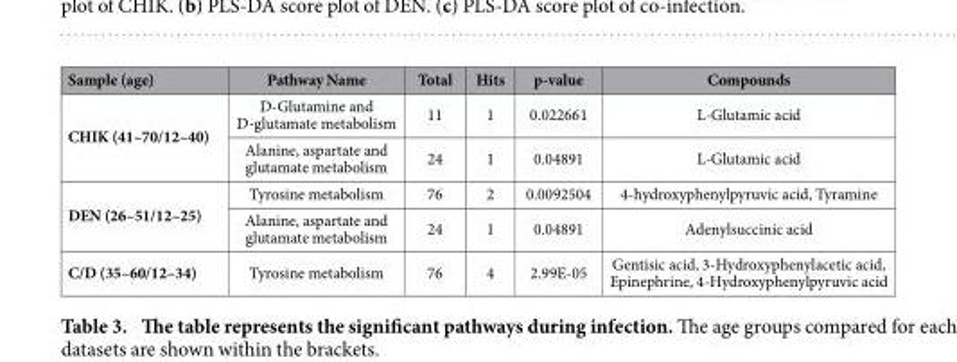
<table><thead><tr><td>Sample (age)</td><td>Pathway Name</td><td>Total</td><td>Hits</td><td>p-value</td><td>Compounds</td></tr></thead><tbody><tr><td rowspan="2">CHIK (41–70/12–40)</td><td>D-Glutamine and D-glutamate metabolism</td><td>11</td><td>1</td><td>0.022661</td><td>L-Glutamic acid</td></tr><tr><td>Alanine, aspartate and glutamate metabolism</td><td>24</td><td>1</td><td>0.04891</td><td>L-Glutamic acid</td></tr><tr><td rowspan="2">DEN (26–51/12–25)</td><td>Tyrosine metabolism</td><td>76</td><td>2</td><td>0.0092504</td><td>4-hydroxyphenylpyruvic acid, Tyramine</td></tr><tr><td>Alanine, aspartate and glutamate metabolism</td><td>24</td><td>1</td><td>0.04891</td><td>Adenylsuccinic acid</td></tr><tr><td>C/D (35–60/12–34)</td><td>Tyrosine metabolism</td><td>76</td><td>4</td><td>2.99E-05</td><td>Gentisic acid, 3-Hydroxyphenylacetic acid, Epinephrine, 4-Hydroxyphenylpyruvic acid</td></tr></tbody></table>